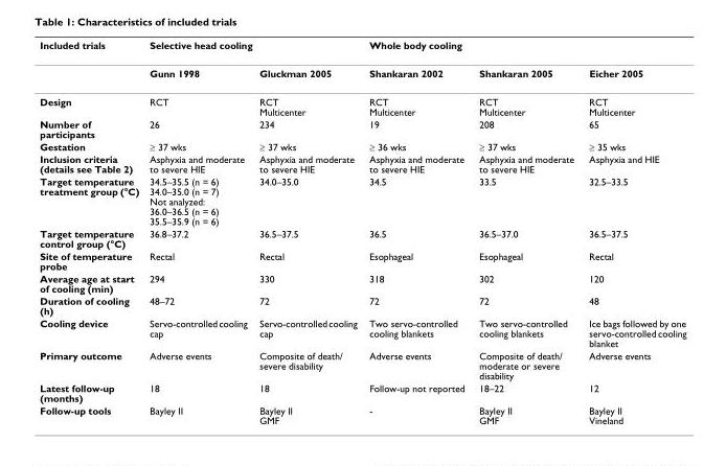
<table><thead><tr><td rowspan="2">Included trials</td><td colspan="2">Selective head cooling</td><td colspan="3">Whole body cooling</td></tr><tr><td>Gunn 1998</td><td>Gluckman 2005</td><td>Shankaran 2002</td><td>Shankaran 2005</td><td>Eicher 2005</td></tr></thead><tbody><tr><td>Design</td><td>RCT</td><td>RCT Multicenter</td><td>RCT Multicenter</td><td>RCT Multicenter</td><td>RCT Multicenter</td></tr><tr><td>Number of participants</td><td>26</td><td>234</td><td>19</td><td>208</td><td>65</td></tr><tr><td>Gestation</td><td>≥ 37 wks</td><td>≥ 37 wks</td><td>≥ 36 wks</td><td>≥ 37 wks</td><td>≥ 35 wks</td></tr><tr><td>Inclusion criteria (details see Table 2)</td><td>Asphyxia and moderate to severe HIE</td><td>Asphyxia and moderate to severe HIE</td><td>Asphyxia and moderate to severe HIE</td><td>Asphyxia and moderate to severe HIE</td><td>Asphyxia and HIE</td></tr><tr><td>Target temperature treatment group (°C)</td><td>34.5–35.5 (n = 6) 34.0–35.0 (n = 7) Not analyzed: 36.0–36.5 (n = 6) 35.5–35.9 (n = 6)</td><td>34.0–35.0</td><td>34.5</td><td>33.5</td><td>32.5–33.5</td></tr><tr><td>Target temperature control group (°C)</td><td>36.8–37.2</td><td>36.5–37.5</td><td>36.5</td><td>36.5–37.0</td><td>36.5–37.5</td></tr><tr><td>Site of temperature probe</td><td>Rectal</td><td>Rectal</td><td>Esophageal</td><td>Esophageal</td><td>Rectal</td></tr><tr><td>Average age at start of cooling (min)</td><td>294</td><td>330</td><td>318</td><td>302</td><td>120</td></tr><tr><td>Duration of cooling (h)</td><td>48–72</td><td>72</td><td>72</td><td>72</td><td>48</td></tr><tr><td>Cooling device</td><td>Servo-controlled cooling cap</td><td>Servo-controlled cooling cap</td><td>Two servo-controlled cooling blankets</td><td>Two servo-controlled cooling blankets</td><td>Ice bags followed by one servo-controlled cooling blanket</td></tr><tr><td>Primary outcome</td><td>Adverse events</td><td>Composite of death/ severe disability</td><td>Adverse events</td><td>Composite of death/ moderate or severe disability</td><td>Adverse events</td></tr><tr><td>Latest follow-up (months)</td><td>18</td><td>18</td><td>Follow-up not reported</td><td>18–22</td><td>12</td></tr><tr><td>Follow-up tools</td><td>Bayley II</td><td>Bayley II GMF</td><td>-</td><td>Bayley II GMF</td><td>Bayley II Vineland</td></tr></tbody></table>